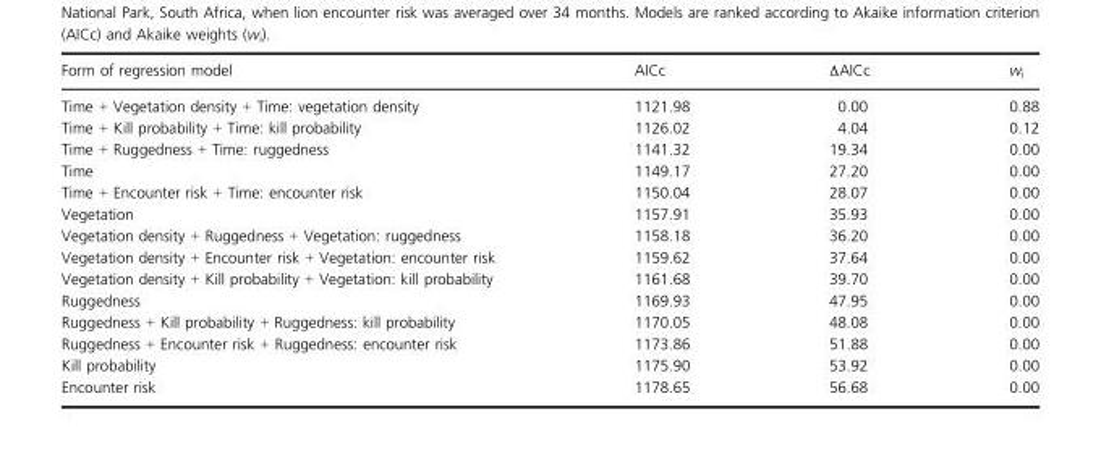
<table><thead><tr><td>Form of regression model</td><td>AICc</td><td>ΔAICc</td><td>w<sub>i</sub></td></tr></thead><tbody><tr><td>Time + Vegetation density + Time: vegetation density</td><td>1121.98</td><td>0.00</td><td>0.88</td></tr><tr><td>Time + Kill probability + Time: kill probability</td><td>1126.02</td><td>4.04</td><td>0.12</td></tr><tr><td>Time + Ruggedness + Time: ruggedness</td><td>1141.32</td><td>19.34</td><td>0.00</td></tr><tr><td>Time</td><td>1149.17</td><td>27.20</td><td>0.00</td></tr><tr><td>Time + Encounter risk + Time: encounter risk</td><td>1150.04</td><td>28.07</td><td>0.00</td></tr><tr><td>Vegetation</td><td>1157.91</td><td>35.93</td><td>0.00</td></tr><tr><td>Vegetation density + Ruggedness + Vegetation: ruggedness</td><td>1158.18</td><td>36.20</td><td>0.00</td></tr><tr><td>Vegetation density + Encounter risk + Vegetation: encounter risk</td><td>1159.62</td><td>37.64</td><td>0.00</td></tr><tr><td>Vegetation density + Kill probability + Vegetation: kill probability</td><td>1161.68</td><td>39.70</td><td>0.00</td></tr><tr><td>Ruggedness</td><td>1169.93</td><td>47.95</td><td>0.00</td></tr><tr><td>Ruggedness + Kill probability + Ruggedness: kill probability</td><td>1170.05</td><td>48.08</td><td>0.00</td></tr><tr><td>Ruggedness + Encounter risk + Ruggedness: encounter risk</td><td>1173.86</td><td>51.88</td><td>0.00</td></tr><tr><td>Kill probability</td><td>1175.90</td><td>53.92</td><td>0.00</td></tr><tr><td>Encounter risk</td><td>1178.65</td><td>56.68</td><td>0.00</td></tr></tbody></table>